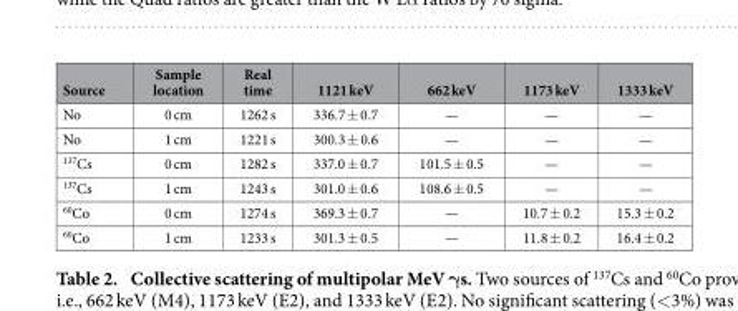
<table><thead><tr><td>Source</td><td>Sample location</td><td>Real time</td><td>1121 keV</td><td>662 keV</td><td>1173 keV</td><td>1333 keV</td></tr></thead><tbody><tr><td>No</td><td>0 cm</td><td>1262 s</td><td>336.7 ± 0.7</td><td>—</td><td>—</td><td>—</td></tr><tr><td>No</td><td>1 cm</td><td>1221 s</td><td>300.3 ± 0.6</td><td>—</td><td>—</td><td>—</td></tr><tr><td><sup>137</sup>Cs</td><td>0 cm</td><td>1282 s</td><td>337.0 ± 0.7</td><td>101.5 ± 0.5</td><td>—</td><td>—</td></tr><tr><td><sup>137</sup>Cs</td><td>1 cm</td><td>1243 s</td><td>301.0 ± 0.6</td><td>108.6 ± 0.5</td><td>—</td><td>—</td></tr><tr><td><sup>60</sup>Co</td><td>0 cm</td><td>1274 s</td><td>369.3 ± 0.7</td><td>—</td><td>10.7 ± 0.2</td><td>15.3 ± 0.2</td></tr><tr><td><sup>60</sup>Co</td><td>1 cm</td><td>1233 s</td><td>301.3 ± 0.5</td><td>—</td><td>11.8 ± 0.2</td><td>16.4 ± 0.2</td></tr></tbody></table>